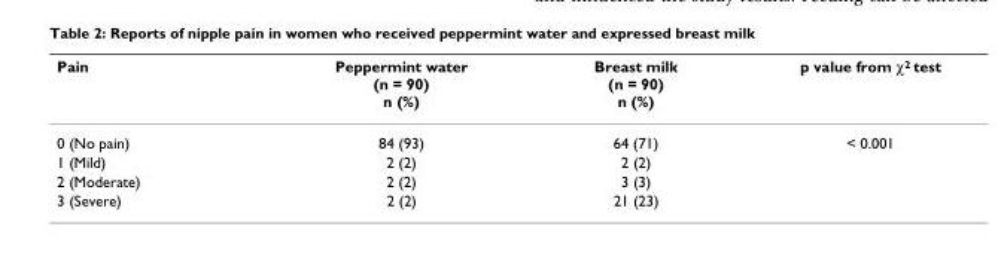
<table><thead><tr><td>Pain</td><td>Peppermint water (n = 90) n (%)</td><td>Breast milk (n = 90) n (%)</td><td>p value from χ2 test</td></tr></thead><tbody><tr><td>0 (No pain)</td><td>84 (93)</td><td>64 (71)</td><td>&lt; 0.001</td></tr><tr><td>1 (Mild)</td><td>2 (2)</td><td>2 (2)</td><td></td></tr><tr><td>2 (Moderate)</td><td>2 (2)</td><td>3 (3)</td><td></td></tr><tr><td>3 (Severe)</td><td>2 (2)</td><td>21 (23)</td><td></td></tr></tbody></table>